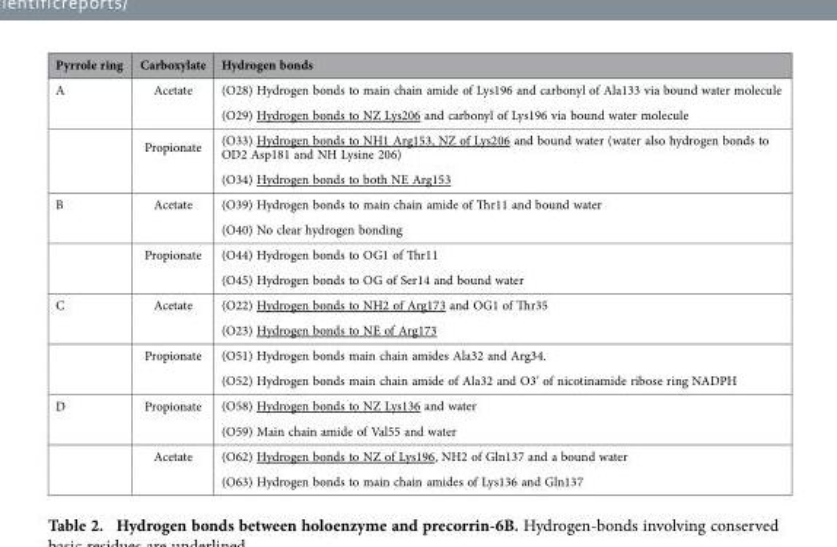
<table><thead><tr><td>Pyrrole ring</td><td>Carboxylate</td><td>Hydrogen bonds</td></tr></thead><tbody><tr><td rowspan="2">A</td><td>Acetate</td><td>(O28) Hydrogen bonds to main chain amide of Lys196 and carbonyl of Ala133 via bound water molecule (O29) Hydrogen bonds to NZ Lys206 and carbonyl of Lys196 via bound water molecule</td></tr><tr><td>Propionate</td><td>(O33) Hydrogen bonds to NH1 Arg153, NZ of Lys206 and bound water (water also hydrogen bonds to OD2 Asp181 and NH Lysine 206) (O34) Hydrogen bonds to both NE Arg153</td></tr><tr><td rowspan="2">B</td><td>Acetate</td><td>(O39) Hydrogen bonds to main chain amide of Thr11 and bound water (O40) No clear hydrogen bonding</td></tr><tr><td>Propionate</td><td>(O44) Hydrogen bonds to OG1 of Thr11 (O45) Hydrogen bonds to OG of Ser14 and bound water</td></tr><tr><td rowspan="2">C</td><td>Acetate</td><td>(O22) Hydrogen bonds to NH2 of Arg173 and OG1 of Thr35 (O23) Hydrogen bonds to NE of Arg173</td></tr><tr><td>Propionate</td><td>(O51) Hydrogen bonds main chain amides Ala32 and Arg34. (O52) Hydrogen bonds main chain amide of Ala32 and O3’ of nicotinamide ribose ring NADPH</td></tr><tr><td rowspan="2">D</td><td>Propionate</td><td>(O58) Hydrogen bonds to NZ Lys136 and water (O59) Main chain amide of Val55 and water</td></tr><tr><td>Acetate</td><td>(O62) Hydrogen bonds to NZ of Lys196, NH2 of Gln137 and a bound water (O63) Hydrogen bonds to main chain amides of Lys136 and Gln137</td></tr></tbody></table>